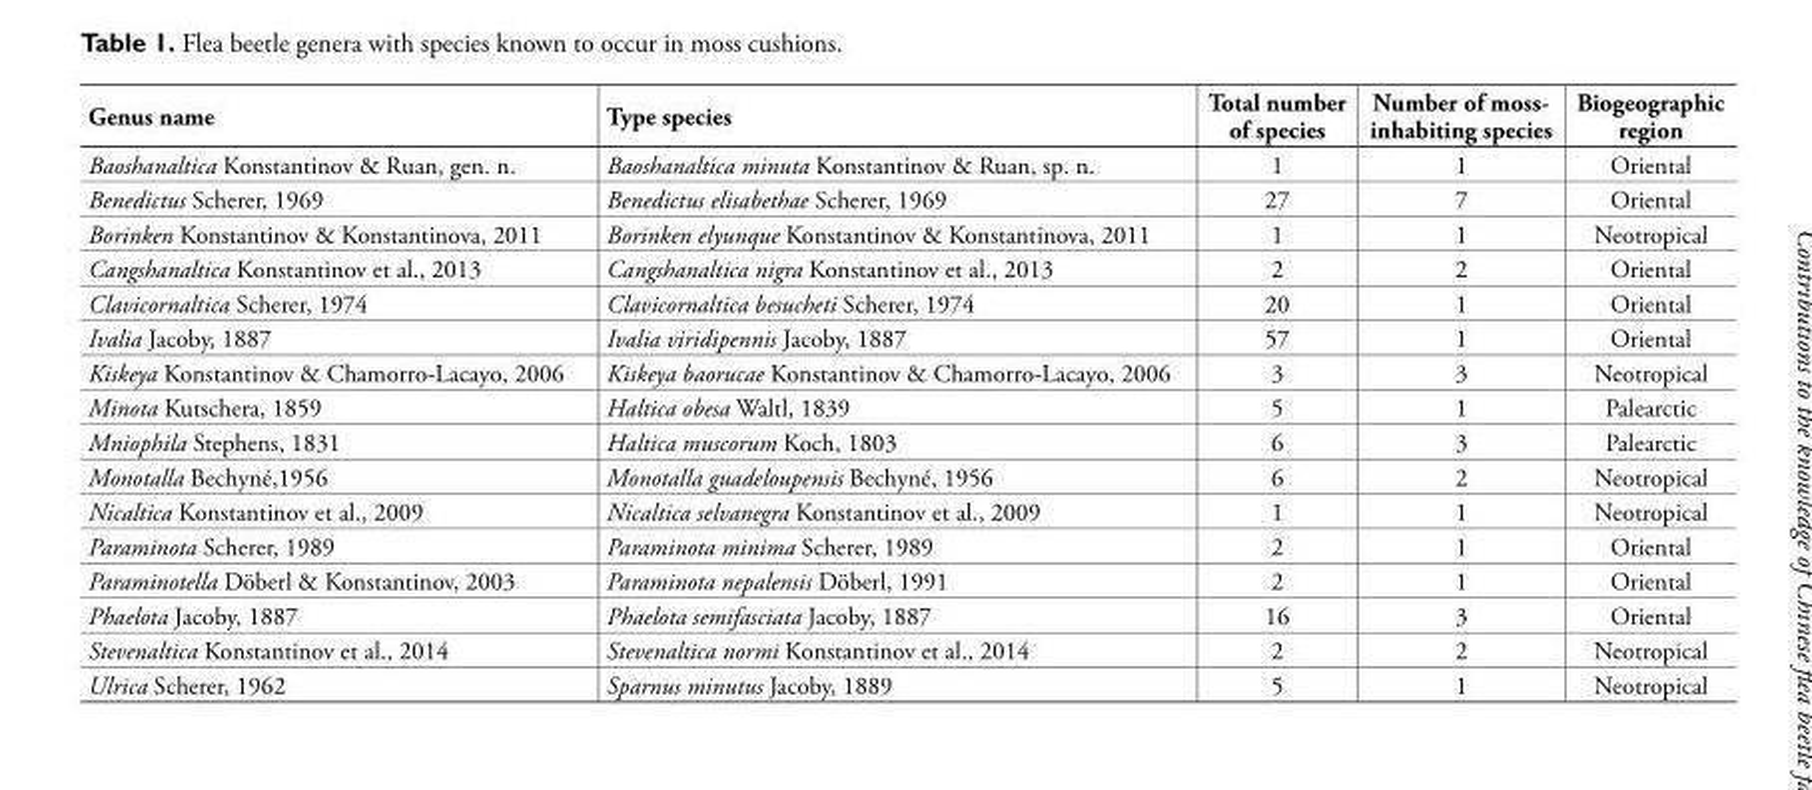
<table><thead><tr><td>Genus name</td><td>Type species</td><td>Total number of species</td><td>Number of moss- inhabiting species</td><td>Biogeographic region</td></tr></thead><tbody><tr><td>Baoshanaltica Konstantinov &amp; Ruan, gen. n.</td><td>Baoshanaltica minuta Konstantinov &amp; Ruan, sp. n.</td><td>1</td><td>1</td><td>Oriental</td></tr><tr><td>Benedictus Scherer, 1969</td><td>Benedictus elisabethae Scherer, 1969</td><td>27</td><td>7</td><td>Oriental</td></tr><tr><td>Borinken Konstantinov &amp; Konstantinova, 2011</td><td>Borinken elyunque Konstantinov &amp; Konstantinova, 2011</td><td>1</td><td>1</td><td>Neotropical</td></tr><tr><td>Cangshanaltica Konstantinov et al., 2013</td><td>Cangshanaltica nigra Konstantinov et al., 2013</td><td>2</td><td>2</td><td>Oriental</td></tr><tr><td>Clavicornaltica Scherer, 1974</td><td>Clavicornaltica besucheti Scherer, 1974</td><td>20</td><td>1</td><td>Oriental</td></tr><tr><td>Ivalia Jacoby, 1887</td><td>Ivalia viridipennis Jacoby, 1887</td><td>57</td><td>1</td><td>Oriental</td></tr><tr><td>Kiskeya Konstantinov &amp; Chamorro-Lacayo, 2006</td><td>Kiskeya baorucae Konstantinov &amp; Chamorro-Lacayo, 2006</td><td>3</td><td>3</td><td>Neotropical</td></tr><tr><td>Minota Kutschera, 1859</td><td>Haltica obesa Waltl, 1839</td><td>5</td><td>1</td><td>Palearctic</td></tr><tr><td>Mniophila Stephens, 1831</td><td>Haltica muscorum Koch, 1803</td><td>6</td><td>3</td><td>Palearctic</td></tr><tr><td>Monotalla Bechyné,1956</td><td>Monotalla guadeloupensis Bechyné, 1956</td><td>6</td><td>2</td><td>Neotropical</td></tr><tr><td>Nicaltica Konstantinov et al., 2009</td><td>Nicaltica selvanegra Konstantinov et al., 2009</td><td>1</td><td>1</td><td>Neotropical</td></tr><tr><td>Paraminota Scherer, 1989</td><td>Paraminota minima Scherer, 1989</td><td>2</td><td>1</td><td>Oriental</td></tr><tr><td>Paraminotella Döberl &amp; Konstantinov, 2003</td><td>Paraminota nepalensis Döberl, 1991</td><td>2</td><td>1</td><td>Oriental</td></tr><tr><td>Phaelota Jacoby, 1887</td><td>Phaelota semifasciata Jacoby, 1887</td><td>16</td><td>3</td><td>Oriental</td></tr><tr><td>Stevenaltica Konstantinov et al., 2014</td><td>Stevenaltica normi Konstantinov et al., 2014</td><td>2</td><td>2</td><td>Neotropical</td></tr><tr><td>Ulrica Scherer, 1962</td><td>Sparnus minutus Jacoby, 1889</td><td>5</td><td>1</td><td>Neotropical</td></tr></tbody></table>